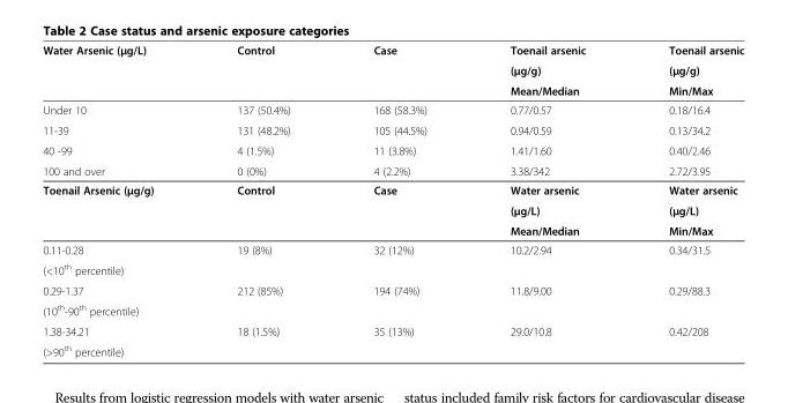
<table><tbody><tr><td rowspan="3">Water Arsenic (μg/L)</td><td rowspan="3">Control</td><td rowspan="3">Case</td><td>Toenail arsenic</td><td>Toenail arsenic</td></tr><tr><td>(μg/g)</td><td>(μg/g)</td></tr><tr><td>Mean/Median</td><td>Min/Max</td></tr><tr><td>Under 10</td><td>137 (50.4%)</td><td>168 (58.3%)</td><td>0.77/0.57</td><td>0.18/16.4</td></tr><tr><td>11-39</td><td>131 (48.2%)</td><td>105 (44.5%)</td><td>0.94/0.59</td><td>0.13/34.2</td></tr><tr><td>40 -99</td><td>4 (1.5%)</td><td>11 (3.8%)</td><td>1.41/1.60</td><td>0.40/2.46</td></tr><tr><td>100 and over</td><td>0 (0%)</td><td>4 (2.2%)</td><td>3.38/342</td><td>2.72/3.95</td></tr><tr><td rowspan="3">Toenail Arsenic (μg/g)</td><td rowspan="3">Control</td><td rowspan="3">Case</td><td>Water arsenic</td><td>Water arsenic</td></tr><tr><td>(μg/L)</td><td>(μg/L)</td></tr><tr><td>Mean/Median</td><td>Min/Max</td></tr><tr><td>0.11-0.28</td><td rowspan="2">19 (8%)</td><td rowspan="2">32 (12%)</td><td rowspan="2">10.2/2.94</td><td rowspan="2">0.34/31.5</td></tr><tr><td>(&lt;10<sup>th</sup> percentile)</td></tr><tr><td>0.29-1.37</td><td rowspan="2">212 (85%)</td><td rowspan="2">194 (74%)</td><td rowspan="2">11.8/9.00</td><td rowspan="2">0.29/88.3</td></tr><tr><td>(10<sup>th</sup>-90<sup>th</sup> percentile)</td></tr><tr><td>1.38-34.21</td><td rowspan="2">18 (1.5%)</td><td rowspan="2">35 (13%)</td><td rowspan="2">29.0/10.8</td><td rowspan="2">0.42/208</td></tr><tr><td>(&gt;90<sup>th</sup> percentile)</td></tr></tbody></table>